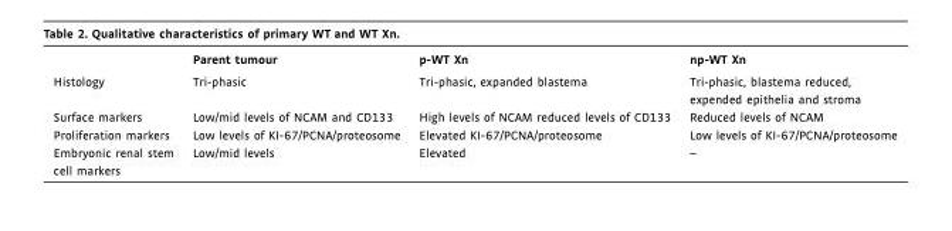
<table><thead><tr><td></td><td>Parent tumour</td><td>p-WT Xn</td><td>np-WT Xn</td></tr></thead><tbody><tr><td>Histology</td><td>Tri-phasic</td><td>Tri-phasic, expanded blastema</td><td>Tri-phasic, blastema reduced, expended epithelia and stroma</td></tr><tr><td>Surface markers</td><td>Low/mid levels of NCAM and CD133</td><td>High levels of NCAM reduced levels of CD133</td><td>Reduced levels of NCAM</td></tr><tr><td>Proliferation markers</td><td>Low levels of KI-67/PCNA/proteosome</td><td>Elevated KI-67/PCNA/proteosome</td><td>Low levels of KI-67/PCNA/proteosome</td></tr><tr><td>Embryonic renal stem cell markers</td><td>Low/mid levels</td><td>Elevated</td><td>–</td></tr></tbody></table>